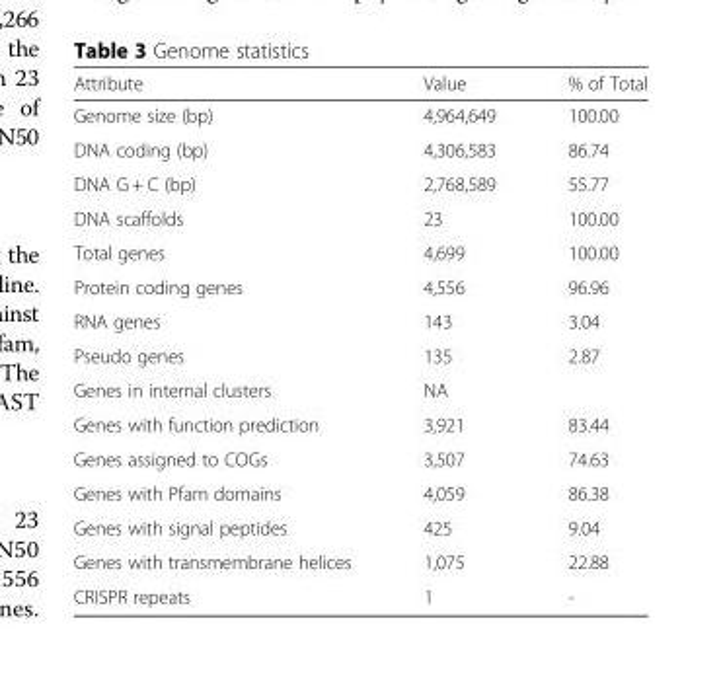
<table><thead><tr><td>Attribute</td><td>Value</td><td>% of Total</td></tr></thead><tbody><tr><td>Genome size (bp)</td><td>4,964,649</td><td>100.00</td></tr><tr><td>DNA coding (bp)</td><td>4,306,583</td><td>86.74</td></tr><tr><td>DNA G + C (bp)</td><td>2,768,589</td><td>55.77</td></tr><tr><td>DNA scaffolds</td><td>23</td><td>100.00</td></tr><tr><td>Total genes</td><td>4,699</td><td>100.00</td></tr><tr><td>Protein coding genes</td><td>4,556</td><td>96.96</td></tr><tr><td>RNA genes</td><td>143</td><td>3.04</td></tr><tr><td>Pseudo genes</td><td>135</td><td>2.87</td></tr><tr><td>Genes in internal clusters</td><td>NA</td><td></td></tr><tr><td>Genes with function prediction</td><td>3,921</td><td>83.44</td></tr><tr><td>Genes assigned to COGs</td><td>3,507</td><td>74.63</td></tr><tr><td>Genes with Pfam domains</td><td>4,059</td><td>86.38</td></tr><tr><td>Genes with signal peptides</td><td>425</td><td>9.04</td></tr><tr><td>Genes with transmembrane helices</td><td>1,075</td><td>22.88</td></tr><tr><td>CRISPR repeats</td><td>1</td><td>-</td></tr></tbody></table>